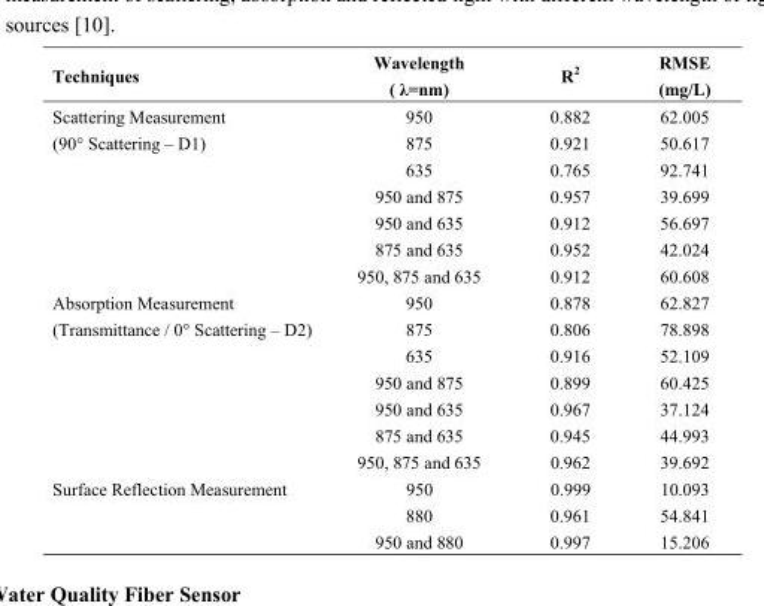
<table><thead><tr><td>Techniques</td><td>Wavelength ( λ=nm)</td><td>R<sup>2</sup></td><td>RMSE (mg/L)</td></tr></thead><tbody><tr><td rowspan="7">Scattering Measurement (90° Scattering – D1)</td><td>950</td><td>0.882</td><td>62.005</td></tr><tr><td>875</td><td>0.921</td><td>50.617</td></tr><tr><td>635</td><td>0.765</td><td>92.741</td></tr><tr><td>950 and 875</td><td>0.957</td><td>39.699</td></tr><tr><td>950 and 635</td><td>0.912</td><td>56.697</td></tr><tr><td>875 and 635</td><td>0.952</td><td>42.024</td></tr><tr><td>950, 875 and 635</td><td>0.912</td><td>60.608</td></tr><tr><td rowspan="7">Absorption Measurement (Transmittance / 0° Scattering – D2)</td><td>950</td><td>0.878</td><td>62.827</td></tr><tr><td>875</td><td>0.806</td><td>78.898</td></tr><tr><td>635</td><td>0.916</td><td>52.109</td></tr><tr><td>950 and 875</td><td>0.899</td><td>60.425</td></tr><tr><td>950 and 635</td><td>0.967</td><td>37.124</td></tr><tr><td>875 and 635</td><td>0.945</td><td>44.993</td></tr><tr><td>950, 875 and 635</td><td>0.962</td><td>39.692</td></tr><tr><td rowspan="3">Surface Reflection Measurement</td><td>950</td><td>0.999</td><td>10.093</td></tr><tr><td>880</td><td>0.961</td><td>54.841</td></tr><tr><td>950 and 880</td><td>0.997</td><td>15.206</td></tr></tbody></table>